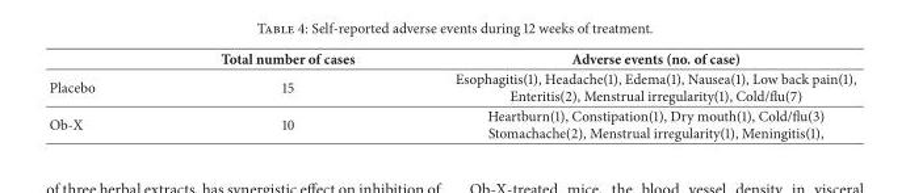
<table><thead><tr><td></td><td>Total number of cases</td><td>Adverse events (no. of case)</td></tr></thead><tbody><tr><td>Placebo</td><td>15</td><td>Esophagitis(1), Headache(1), Edema(1), Nausea(1), Low back pain(1), Enteritis(2), Menstrual irregularity(1), Cold/flu(7)</td></tr><tr><td>Ob-X</td><td>10</td><td>Heartburn(1), Constipation(1), Dry mouth(1), Cold/flu(3) Stomachache(2), Menstrual irregularity(1), Meningitis(1),</td></tr></tbody></table>